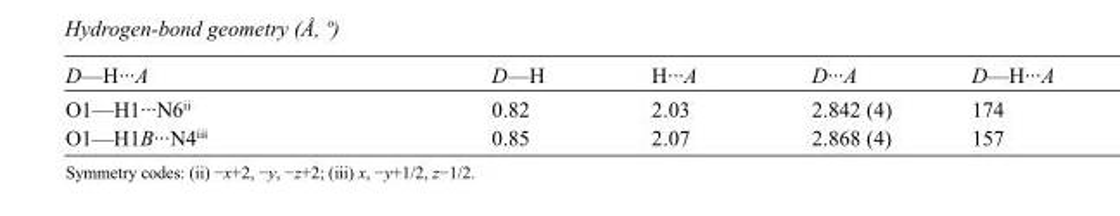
<table><tbody><tr><td>D—H···A</td><td>D—H</td><td>H···A</td><td>D···A</td><td>D—H···A</td></tr><tr><td>O1—H1···N6<sup>ii</sup></td><td>0.82</td><td>2.03</td><td>2.842 (4)</td><td>174</td></tr><tr><td>O1—H1B···N4<sup>iii</sup></td><td>0.85</td><td>2.07</td><td>2.868 (4)</td><td>157</td></tr></tbody></table>